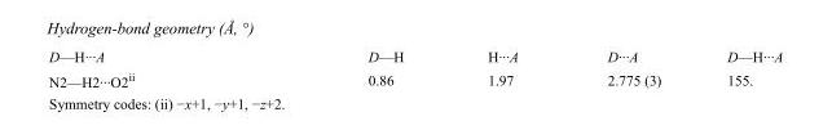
<table><tbody><tr><td>D—H···A</td><td>D—H</td><td>H···A</td><td>D···A</td><td>D—H···A</td></tr><tr><td>N2—H2···O2<sup>ii</sup></td><td>0.86</td><td>1.97</td><td>2.775 (3)</td><td>155.</td></tr></tbody></table>